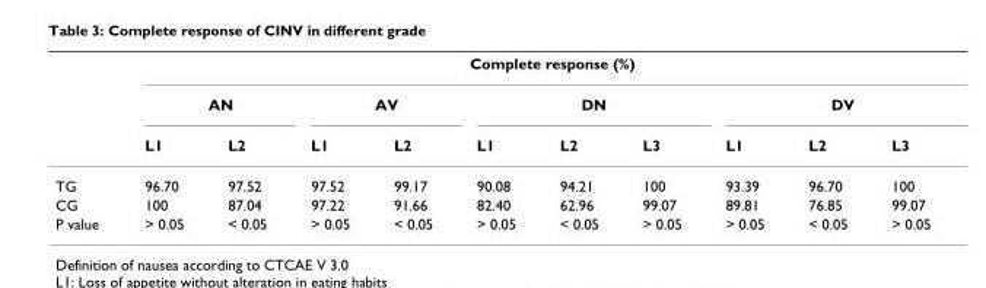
<table><thead><tr><td rowspan="3"></td><td colspan="10">Complete response (%)</td></tr><tr><td colspan="2">AN</td><td colspan="2">AV</td><td colspan="3">DN</td><td colspan="3">DV</td></tr><tr><td>L1</td><td>L2</td><td>L1</td><td>L2</td><td>L1</td><td>L2</td><td>L3</td><td>L1</td><td>L2</td><td>L3</td></tr></thead><tbody><tr><td>TG</td><td>96.70</td><td>97.52</td><td>97.52</td><td>99.17</td><td>90.08</td><td>94.21</td><td>100</td><td>93.39</td><td>96.70</td><td>100</td></tr><tr><td>CG</td><td>100</td><td>87.04</td><td>97.22</td><td>91.66</td><td>82.40</td><td>62.96</td><td>99.07</td><td>89.81</td><td>76.85</td><td>99.07</td></tr><tr><td>P value</td><td>&gt; 0.05</td><td>&lt; 0.05</td><td>&gt; 0.05</td><td>&lt; 0.05</td><td>&gt; 0.05</td><td>&lt; 0.05</td><td>&gt; 0.05</td><td>&gt; 0.05</td><td>&lt; 0.05</td><td>&gt; 0.05</td></tr></tbody></table>